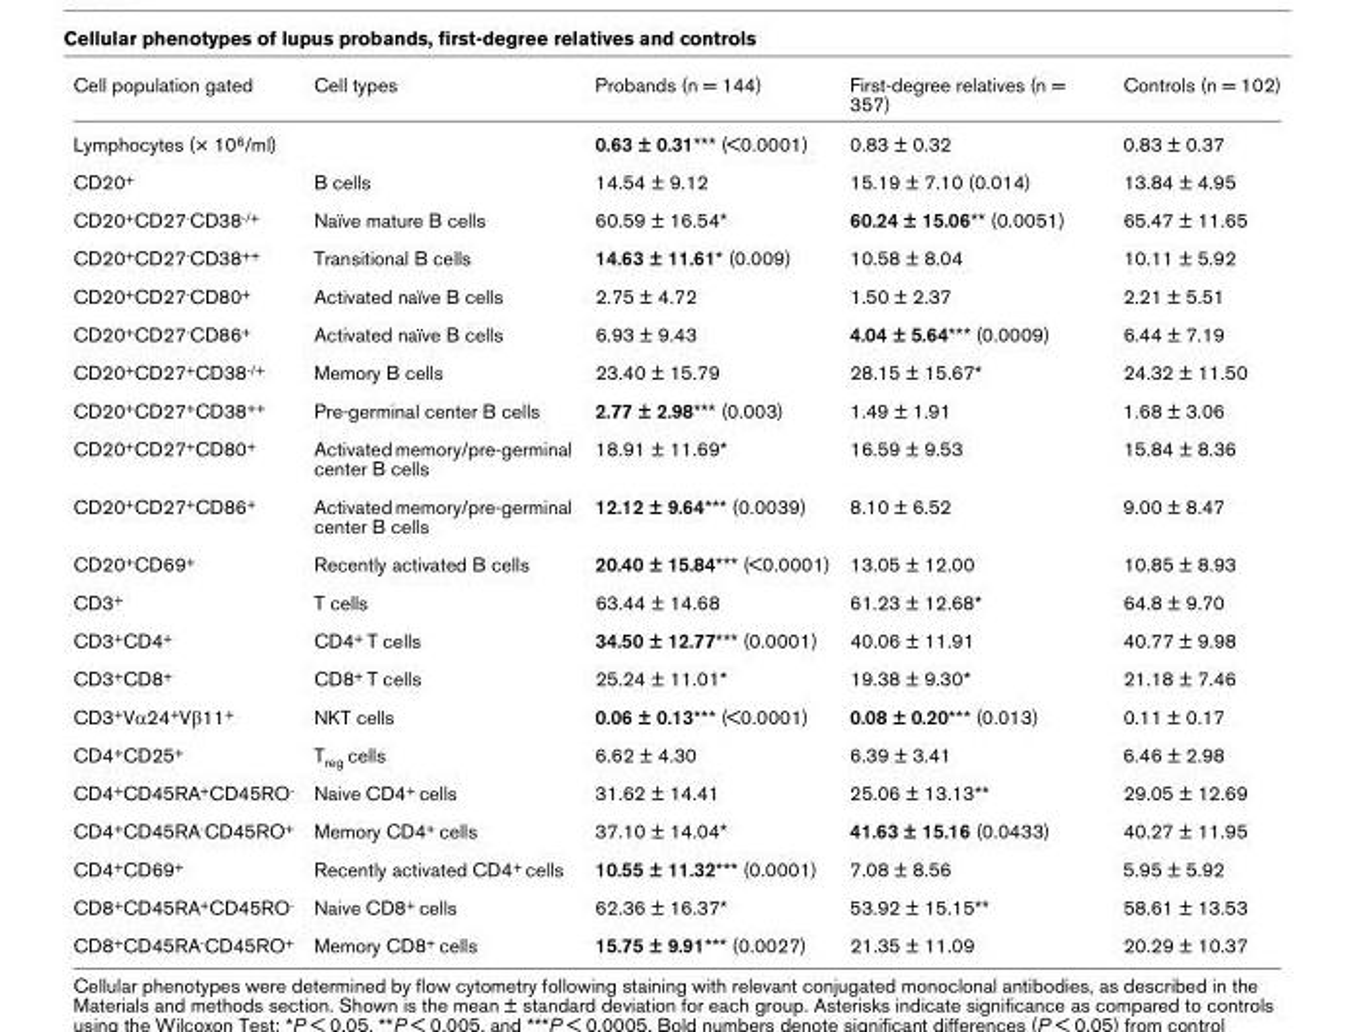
<table><thead><tr><td>Cell population gated</td><td>Cell types</td><td>Probands (n = 144)</td><td>First-degree relatives (n = 357)</td><td>Controls (n = 102)</td></tr></thead><tbody><tr><td>Lymphocytes (× 10<sup>6</sup>/ml)</td><td></td><td>0.63 ± 0.31*** (&lt;0.0001)</td><td>0.83 ± 0.32</td><td>0.83 ± 0.37</td></tr><tr><td>CD20<sup>+</sup></td><td>B cells</td><td>14.54 ± 9.12</td><td>15.19 ± 7.10 (0.014)</td><td>13.84 ± 4.95</td></tr><tr><td>CD20<sup>+</sup>CD27<sup>-</sup>CD38<sup>-/+</sup></td><td>Naïve mature B cells</td><td>60.59 ± 16.54*</td><td>60.24 ± 15.06** (0.0051)</td><td>65.47 ± 11.65</td></tr><tr><td>CD20<sup>+</sup>CD27<sup>-</sup>CD38<sup>++</sup></td><td>Transitional B cells</td><td>14.63 ± 11.61* (0.009)</td><td>10.58 ± 8.04</td><td>10.11 ± 5.92</td></tr><tr><td>CD20<sup>+</sup>CD27<sup>-</sup>CD80<sup>+</sup></td><td>Activated naïve B cells</td><td>2.75 ± 4.72</td><td>1.50 ± 2.37</td><td>2.21 ± 5.51</td></tr><tr><td>CD20<sup>+</sup>CD27<sup>-</sup>CD86<sup>+</sup></td><td>Activated naïve B cells</td><td>6.93 ± 9.43</td><td>4.04 ± 5.64*** (0.0009)</td><td>6.44 ± 7.19</td></tr><tr><td>CD20<sup>+</sup>CD27<sup>+</sup>CD38<sup>-/+</sup></td><td>Memory B cells</td><td>23.40 ± 15.79</td><td>28.15 ± 15.67*</td><td>24.32 ± 11.50</td></tr><tr><td>CD20<sup>+</sup>CD27<sup>+</sup>CD38<sup>++</sup></td><td>Pre-germinal center B cells</td><td>2.77 ± 2.98*** (0.003)</td><td>1.49 ± 1.91</td><td>1.68 ± 3.06</td></tr><tr><td>CD20<sup>+</sup>CD27<sup>+</sup>CD80<sup>+</sup></td><td>Activated memory/pre-germinal center B cells</td><td>18.91 ± 11.69*</td><td>16.59 ± 9.53</td><td>15.84 ± 8.36</td></tr><tr><td>CD20<sup>+</sup>CD27<sup>+</sup>CD86<sup>+</sup></td><td>Activated memory/pre-germinal center B cells</td><td>12.12 ± 9.64*** (0.0039)</td><td>8.10 ± 6.52</td><td>9.00 ± 8.47</td></tr><tr><td>CD20<sup>+</sup>CD69<sup>+</sup></td><td>Recently activated B cells</td><td>20.40 ± 15.84*** (&lt;0.0001)</td><td>13.05 ± 12.00</td><td>10.85 ± 8.93</td></tr><tr><td>CD3<sup>+</sup></td><td>T cells</td><td>63.44 ± 14.68</td><td>61.23 ± 12.68*</td><td>64.8 ± 9.70</td></tr><tr><td>CD3<sup>+</sup>CD4<sup>+</sup></td><td>CD4<sup>+</sup> T cells</td><td>34.50 ± 12.77*** (0.0001)</td><td>40.06 ± 11.91</td><td>40.77 ± 9.98</td></tr><tr><td>CD3<sup>+</sup>CD8<sup>+</sup></td><td>CD8<sup>+</sup> T cells</td><td>25.24 ± 11.01*</td><td>19.38 ± 9.30*</td><td>21.18 ± 7.46</td></tr><tr><td>CD3<sup>+</sup>Vα24<sup>+</sup>Vβ11<sup>+</sup></td><td>NKT cells</td><td>0.06 ± 0.13*** (&lt;0.0001)</td><td>0.08 ± 0.20*** (0.013)</td><td>0.11 ± 0.17</td></tr><tr><td>CD4<sup>+</sup>CD25<sup>+</sup></td><td>T<sub>reg</sub> cells</td><td>6.62 ± 4.30</td><td>6.39 ± 3.41</td><td>6.46 ± 2.98</td></tr><tr><td>CD4<sup>+</sup>CD45RA<sup>+</sup>CD45RO<sup>-</sup></td><td>Naive CD4<sup>+</sup> cells</td><td>31.62 ± 14.41</td><td>25.06 ± 13.13**</td><td>29.05 ± 12.69</td></tr><tr><td>CD4<sup>+</sup>CD45RA<sup>-</sup>CD45RO<sup>+</sup></td><td>Memory CD4<sup>+</sup> cells</td><td>37.10 ± 14.04*</td><td>41.63 ± 15.16 (0.0433)</td><td>40.27 ± 11.95</td></tr><tr><td>CD4<sup>+</sup>CD69<sup>+</sup></td><td>Recently activated CD4<sup>+</sup> cells</td><td>10.55 ± 11.32*** (0.0001)</td><td>7.08 ± 8.56</td><td>5.95 ± 5.92</td></tr><tr><td>CD8<sup>+</sup>CD45RA<sup>+</sup>CD45RO<sup>-</sup></td><td>Naive CD8<sup>+</sup> cells</td><td>62.36 ± 16.37*</td><td>53.92 ± 15.15**</td><td>58.61 ± 13.53</td></tr><tr><td>CD8<sup>+</sup>CD45RA<sup>-</sup>CD45RO<sup>+</sup></td><td>Memory CD8<sup>+</sup> cells</td><td>15.75 ± 9.91*** (0.0027)</td><td>21.35 ± 11.09</td><td>20.29 ± 10.37</td></tr></tbody></table>